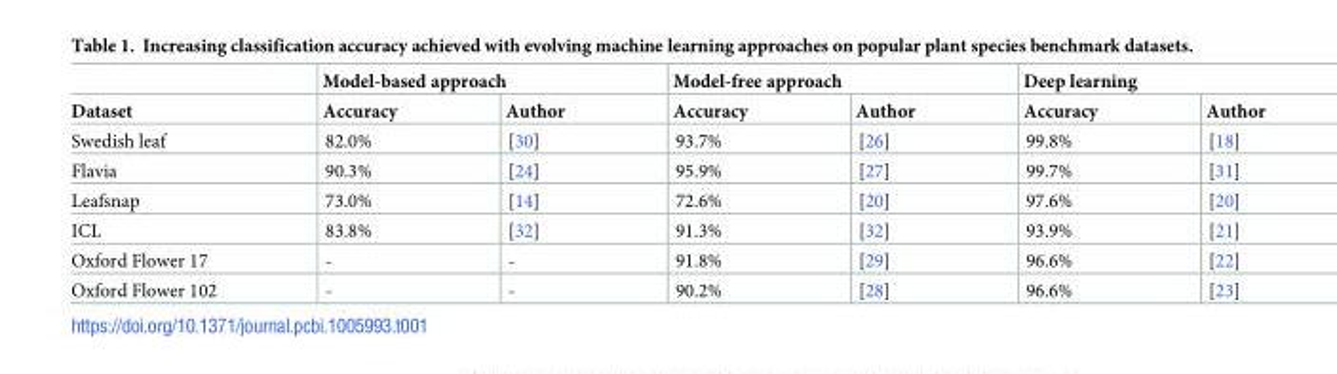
<table><thead><tr><td rowspan="2">Dataset</td><td colspan="2">Model-based approach</td><td colspan="2">Model-free approach</td><td colspan="2">Deep learning</td></tr><tr><td>Accuracy</td><td>Author</td><td>Accuracy</td><td>Author</td><td>Accuracy</td><td>Author</td></tr></thead><tbody><tr><td>Swedish leaf</td><td>82.0%</td><td>[30]</td><td>93.7%</td><td>[26]</td><td>99.8%</td><td>[18]</td></tr><tr><td>Flavia</td><td>90.3%</td><td>[24]</td><td>95.9%</td><td>[27]</td><td>99.7%</td><td>[31]</td></tr><tr><td>Leafsnap</td><td>73.0%</td><td>[14]</td><td>72.6%</td><td>[20]</td><td>97.6%</td><td>[20]</td></tr><tr><td>ICL</td><td>83.8%</td><td>[32]</td><td>91.3%</td><td>[32]</td><td>93.9%</td><td>[21]</td></tr><tr><td>Oxford Flower 17</td><td>-</td><td>-</td><td>91.8%</td><td>[29]</td><td>96.6%</td><td>[22]</td></tr><tr><td>Oxford Flower 102</td><td>-</td><td>-</td><td>90.2%</td><td>[28]</td><td>96.6%</td><td>[23]</td></tr></tbody></table>